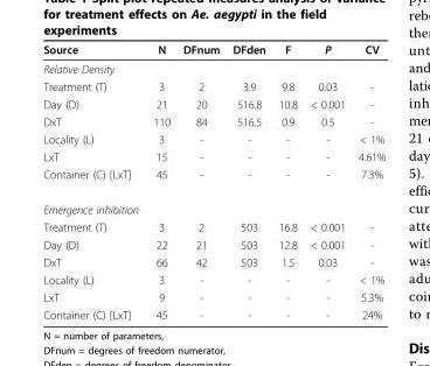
<table><thead><tr><td>Source</td><td>N</td><td>DFnum</td><td>DFden</td><td>F</td><td>P</td><td>CV</td></tr></thead><tbody><tr><td colspan="7">Relative Density</td></tr><tr><td>Treatment (T)</td><td>3</td><td>2</td><td>3.9</td><td>9.8</td><td>0.03</td><td>-</td></tr><tr><td>Day (D)</td><td>21</td><td>20</td><td>516.8</td><td>10.8</td><td>&lt; 0.001</td><td>-</td></tr><tr><td>DxT</td><td>110</td><td>84</td><td>516.5</td><td>0.9</td><td>0.5</td><td>-</td></tr><tr><td>Locality (L)</td><td>3</td><td>-</td><td>-</td><td>-</td><td>-</td><td>&lt; 1%</td></tr><tr><td>LxT</td><td>15</td><td>-</td><td>-</td><td>-</td><td>-</td><td>4.61%</td></tr><tr><td>Container (C) [LxT]</td><td>45</td><td>-</td><td>-</td><td>-</td><td>-</td><td>7.3%</td></tr><tr><td colspan="7">Emergence inhibition</td></tr><tr><td>Treatment (T)</td><td>3</td><td>2</td><td>503</td><td>16.8</td><td>&lt; 0.001</td><td>-</td></tr><tr><td>Day (D)</td><td>22</td><td>21</td><td>503</td><td>12.8</td><td>&lt; 0.001</td><td>-</td></tr><tr><td>DxT</td><td>66</td><td>42</td><td>503</td><td>1.5</td><td>0.03</td><td>-</td></tr><tr><td>Locality (L)</td><td>3</td><td>-</td><td>-</td><td>-</td><td>-</td><td>&lt; 1%</td></tr><tr><td>LxT</td><td>9</td><td>-</td><td>-</td><td>-</td><td>-</td><td>5.3%</td></tr><tr><td>Container (C) [LxT]</td><td>45</td><td>-</td><td>-</td><td>-</td><td>-</td><td>24%</td></tr></tbody></table>